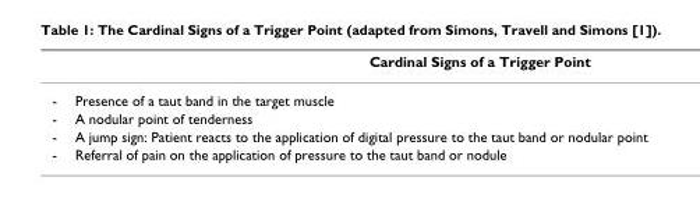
<table><thead><tr><td colspan="2">Cardinal Signs of a Trigger Point</td></tr><tr><td>-</td><td>Presence of a taut band in the target muscle</td></tr></thead><tbody><tr><td>-</td><td>A nodular point of tenderness</td></tr><tr><td>-</td><td>A jump sign: Patient reacts to the application of digital pressure to the taut band or nodular point</td></tr><tr><td>-</td><td>Referral of pain on the application of pressure to the taut band or nodule</td></tr></tbody></table>